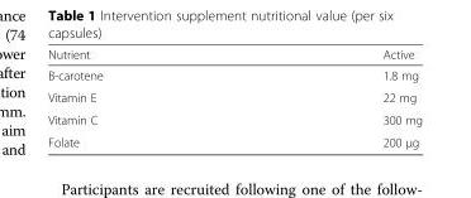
<table><thead><tr><td>Nutrient</td><td>Active</td></tr></thead><tbody><tr><td>B-carotene</td><td>1.8 mg</td></tr><tr><td>Vitamin E</td><td>22 mg</td></tr><tr><td>Vitamin C</td><td>300 mg</td></tr><tr><td>Folate</td><td>200 μg</td></tr></tbody></table>